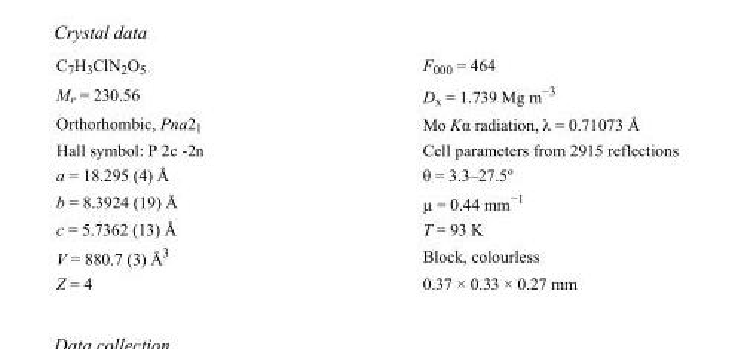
<table><tbody><tr><td>C<sub>7</sub>H<sub>3</sub>ClN<sub>2</sub>O<sub>5</sub></td><td>F000 = 464</td></tr><tr><td>M<sub>r</sub> = 230.56</td><td>D<sub>x</sub> = 1.739 Mg m<sup>−3</sup></td></tr><tr><td>Orthorhombic, Pna2<sub>1</sub></td><td>Mo Kα radiation, λ = 0.71073 Å</td></tr><tr><td>Hall symbol: P 2c -2n</td><td>Cell parameters from 2915 reflections</td></tr><tr><td>a = 18.295 (4) Å</td><td>θ = 3.3–27.5º</td></tr><tr><td>b = 8.3924 (19) Å</td><td>µ = 0.44 mm<sup>−1</sup></td></tr><tr><td>c = 5.7362 (13) Å</td><td>T = 93 K</td></tr><tr><td>V = 880.7 (3) Å<sup>3</sup></td><td>Block, colourless</td></tr><tr><td>Z = 4</td><td>0.37 × 0.33 × 0.27 mm</td></tr></tbody></table>